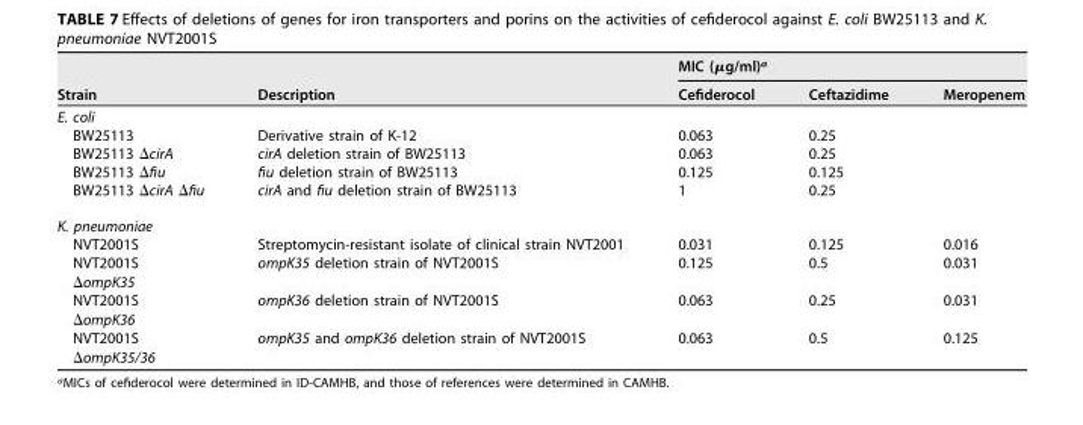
<table><thead><tr><td rowspan="2">Strain</td><td rowspan="2">Description</td><td colspan="3">MIC (μg/ml)<sup>a</sup></td></tr><tr><td>Cefiderocol</td><td>Ceftazidime</td><td>Meropenem</td></tr></thead><tbody><tr><td colspan="5">E. coli</td></tr><tr><td>BW25113</td><td>Derivative strain of K-12</td><td>0.063</td><td>0.25</td><td></td></tr><tr><td>BW25113 ΔcirA</td><td>cirA deletion strain of BW25113</td><td>0.063</td><td>0.25</td><td></td></tr><tr><td>BW25113 Δfiu</td><td>fiu deletion strain of BW25113</td><td>0.125</td><td>0.125</td><td></td></tr><tr><td>BW25113 ΔcirA Δfiu</td><td>cirA and fiu deletion strain of BW25113</td><td>1</td><td>0.25</td><td></td></tr><tr><td colspan="5">K. pneumoniae</td></tr><tr><td>NVT2001S</td><td>Streptomycin-resistant isolate of clinical strain NVT2001</td><td>0.031</td><td>0.125</td><td>0.016</td></tr><tr><td>NVT2001S ΔompK35</td><td>ompK35 deletion strain of NVT2001S</td><td>0.125</td><td>0.5</td><td>0.031</td></tr><tr><td>NVT2001S ΔompK36</td><td>ompK36 deletion strain of NVT2001S</td><td>0.063</td><td>0.25</td><td>0.031</td></tr><tr><td>NVT2001S ΔompK35/36</td><td>ompK35 and ompK36 deletion strain of NVT2001S</td><td>0.063</td><td>0.5</td><td>0.125</td></tr></tbody></table>